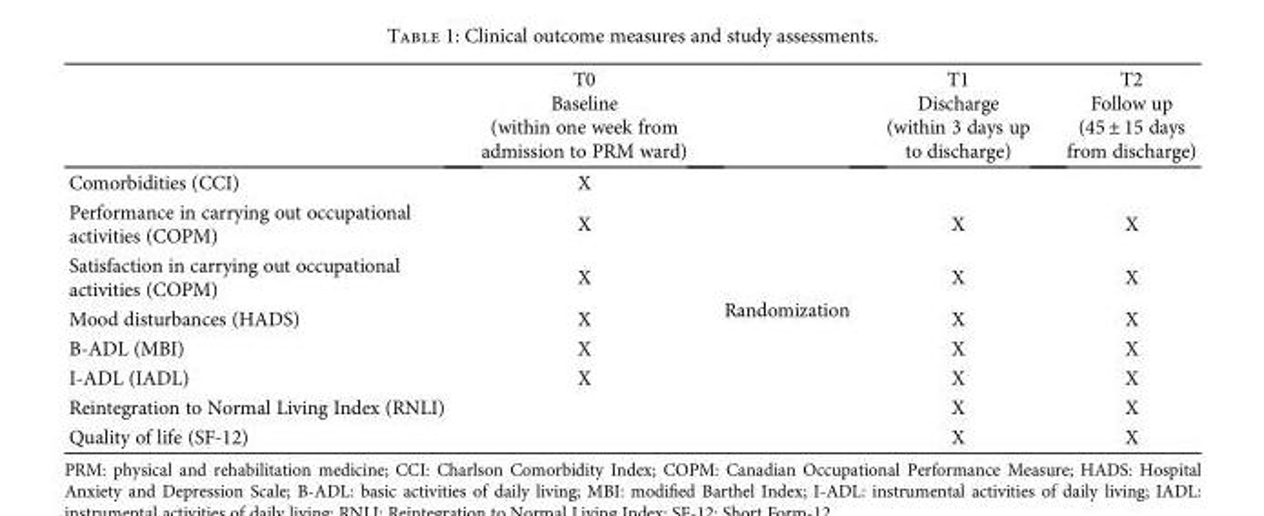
<table><thead><tr><td></td><td>T0 Baseline (within one week from admission to PRM ward)</td><td></td><td>T1 Discharge (within 3 days up to discharge)</td><td>T2 Follow up (45 ± 15 days from discharge)</td></tr></thead><tbody><tr><td>Comorbidities (CCI)</td><td>X</td><td rowspan="8">Randomization</td><td></td><td></td></tr><tr><td>Performance in carrying out occupational activities (COPM)</td><td>X</td><td>X</td><td>X</td></tr><tr><td>Satisfaction in carrying out occupational activities (COPM)</td><td>X</td><td>X</td><td>X</td></tr><tr><td>Mood disturbances (HADS)</td><td>X</td><td>X</td><td>X</td></tr><tr><td>B-ADL (MBI)</td><td>X</td><td>X</td><td>X</td></tr><tr><td>I-ADL (IADL)</td><td>X</td><td>X</td><td>X</td></tr><tr><td>Reintegration to Normal Living Index (RNLI)</td><td></td><td>X</td><td>X</td></tr><tr><td>Quality of life (SF-12)</td><td></td><td>X</td><td>X</td></tr></tbody></table>